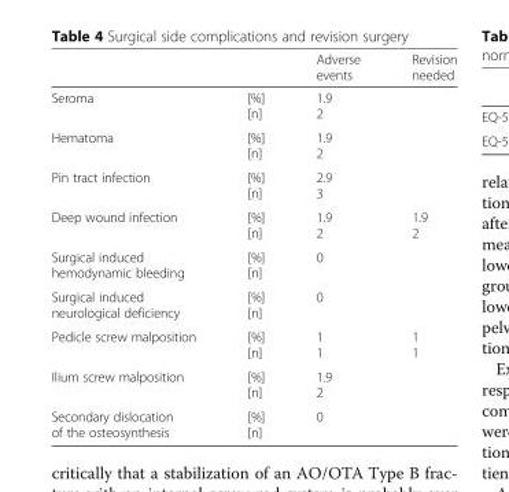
<table><thead><tr><td></td><td></td><td>Adverse events</td><td>Revision needed</td></tr></thead><tbody><tr><td>Seroma</td><td>[%] [n]</td><td>1.9 2</td><td></td></tr><tr><td>Hematoma</td><td>[%] [n]</td><td>1.9 2</td><td></td></tr><tr><td>Pin tract infection</td><td>[%] [n]</td><td>2.9 3</td><td></td></tr><tr><td>Deep wound infection</td><td>[%] [n]</td><td>1.9 2</td><td>1.9 2</td></tr><tr><td>Surgical induced hemodynamic bleeding</td><td>[%] [n]</td><td>0</td><td></td></tr><tr><td>Surgical induced neurological deficiency</td><td>[%] [n]</td><td>0</td><td></td></tr><tr><td>Pedicle screw malposition</td><td>[%] [n]</td><td>1 1</td><td>1 1</td></tr><tr><td>Ilium screw malposition</td><td>[%] [n]</td><td>1.9 2</td><td></td></tr><tr><td>Secondary dislocation of the osteosynthesis</td><td>[%] [n]</td><td>0</td><td></td></tr></tbody></table>